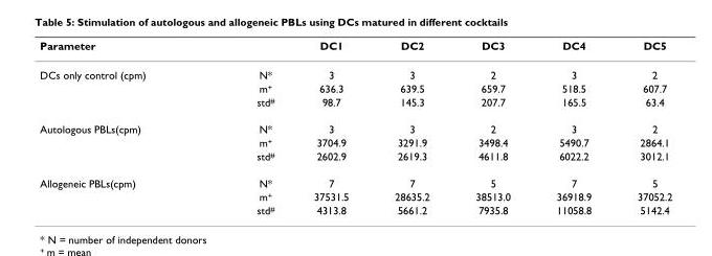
<table><thead><tr><td>Parameter</td><td></td><td>DC1</td><td>DC2</td><td>DC3</td><td>DC4</td><td>DC5</td></tr></thead><tbody><tr><td rowspan="3">DCs only control (cpm)</td><td>N*</td><td>3</td><td>3</td><td>2</td><td>3</td><td>2</td></tr><tr><td>m<sup>+</sup></td><td>636.3</td><td>639.5</td><td>659.7</td><td>518.5</td><td>607.7</td></tr><tr><td>std<sup>#</sup></td><td>98.7</td><td>145.3</td><td>207.7</td><td>165.5</td><td>63.4</td></tr><tr><td rowspan="3">Autologous PBLs(cpm)</td><td>N*</td><td>3</td><td>3</td><td>2</td><td>3</td><td>2</td></tr><tr><td>m<sup>+</sup></td><td>3704.9</td><td>3291.9</td><td>3498.4</td><td>5490.7</td><td>2864.1</td></tr><tr><td>std<sup>#</sup></td><td>2602.9</td><td>2619.3</td><td>4611.8</td><td>6022.2</td><td>3012.1</td></tr><tr><td rowspan="3">Allogeneic PBLs(cpm)</td><td>N*</td><td>7</td><td>7</td><td>5</td><td>7</td><td>5</td></tr><tr><td>m<sup>+</sup></td><td>37531.5</td><td>28635.2</td><td>38513.0</td><td>36918.9</td><td>37052.2</td></tr><tr><td>std<sup>#</sup></td><td>4313.8</td><td>5661.2</td><td>7935.8</td><td>11058.8</td><td>5142.4</td></tr></tbody></table>